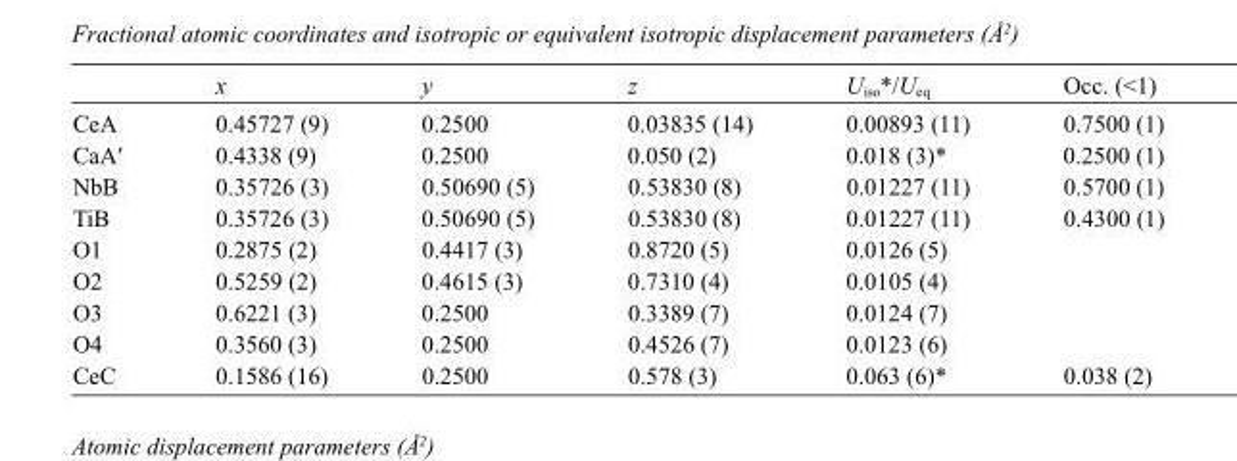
<table><thead><tr><td></td><td>x</td><td>y</td><td>z</td><td>U<sub>iso</sub>*/U<sub>eq</sub></td><td>Occ. (&lt;1)</td></tr></thead><tbody><tr><td>CeA</td><td>0.45727 (9)</td><td>0.2500</td><td>0.03835 (14)</td><td>0.00893 (11)</td><td>0.7500 (1)</td></tr><tr><td>CaA′</td><td>0.4338 (9)</td><td>0.2500</td><td>0.050 (2)</td><td>0.018 (3)*</td><td>0.2500 (1)</td></tr><tr><td>NbB</td><td>0.35726 (3)</td><td>0.50690 (5)</td><td>0.53830 (8)</td><td>0.01227 (11)</td><td>0.5700 (1)</td></tr><tr><td>TiB</td><td>0.35726 (3)</td><td>0.50690 (5)</td><td>0.53830 (8)</td><td>0.01227 (11)</td><td>0.4300 (1)</td></tr><tr><td>O1</td><td>0.2875 (2)</td><td>0.4417 (3)</td><td>0.8720 (5)</td><td>0.0126 (5)</td><td></td></tr><tr><td>O2</td><td>0.5259 (2)</td><td>0.4615 (3)</td><td>0.7310 (4)</td><td>0.0105 (4)</td><td></td></tr><tr><td>O3</td><td>0.6221 (3)</td><td>0.2500</td><td>0.3389 (7)</td><td>0.0124 (7)</td><td></td></tr><tr><td>O4</td><td>0.3560 (3)</td><td>0.2500</td><td>0.4526 (7)</td><td>0.0123 (6)</td><td></td></tr><tr><td>CeC</td><td>0.1586 (16)</td><td>0.2500</td><td>0.578 (3)</td><td>0.063 (6)*</td><td>0.038 (2)</td></tr></tbody></table>